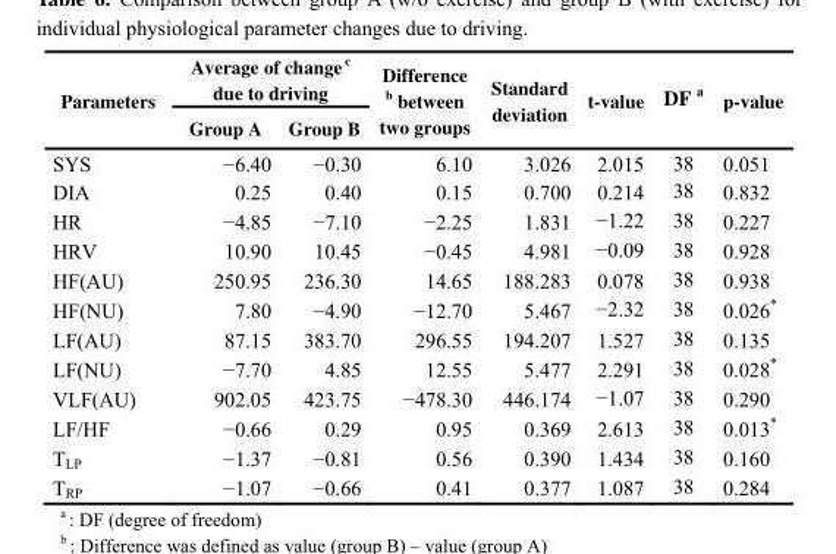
<table><thead><tr><td rowspan="2">Parameters</td><td colspan="2">Average of change <sup>c</sup> due to driving</td><td rowspan="2">Difference <sup>b</sup> between two groups</td><td rowspan="2">Standard deviation</td><td rowspan="2">t-value</td><td rowspan="2">DF <sup>a</sup></td><td rowspan="2">p-value</td></tr><tr><td>Group A</td><td>Group B</td></tr></thead><tbody><tr><td>SYS</td><td>−6.40</td><td>−0.30</td><td>6.10</td><td>3.026</td><td>2.015</td><td>38</td><td>0.051</td></tr><tr><td>DIA</td><td>0.25</td><td>0.40</td><td>0.15</td><td>0.700</td><td>0.214</td><td>38</td><td>0.832</td></tr><tr><td>HR</td><td>−4.85</td><td>−7.10</td><td>−2.25</td><td>1.831</td><td>−1.22</td><td>38</td><td>0.227</td></tr><tr><td>HRV</td><td>10.90</td><td>10.45</td><td>−0.45</td><td>4.981</td><td>−0.09</td><td>38</td><td>0.928</td></tr><tr><td>HF(AU)</td><td>250.95</td><td>236.30</td><td>14.65</td><td>188.283</td><td>0.078</td><td>38</td><td>0.938</td></tr><tr><td>HF(NU)</td><td>7.80</td><td>−4.90</td><td>−12.70</td><td>5.467</td><td>−2.32</td><td>38</td><td>0.026*</td></tr><tr><td>LF(AU)</td><td>87.15</td><td>383.70</td><td>296.55</td><td>194.207</td><td>1.527</td><td>38</td><td>0.135</td></tr><tr><td>LF(NU)</td><td>−7.70</td><td>4.85</td><td>12.55</td><td>5.477</td><td>2.291</td><td>38</td><td>0.028*</td></tr><tr><td>VLF(AU)</td><td>902.05</td><td>423.75</td><td>−478.30</td><td>446.174</td><td>−1.07</td><td>38</td><td>0.290</td></tr><tr><td>LF/HF</td><td>−0.66</td><td>0.29</td><td>0.95</td><td>0.369</td><td>2.613</td><td>38</td><td>0.013*</td></tr><tr><td>T<sub>LP</sub></td><td>−1.37</td><td>−0.81</td><td>0.56</td><td>0.390</td><td>1.434</td><td>38</td><td>0.160</td></tr><tr><td>T<sub>RP</sub></td><td>−1.07</td><td>−0.66</td><td>0.41</td><td>0.377</td><td>1.087</td><td>38</td><td>0.284</td></tr></tbody></table>